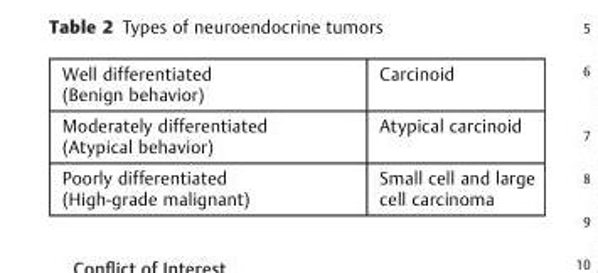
<table><tbody><tr><td>Well differentiated (Benign behavior)</td><td>Carcinoid</td></tr><tr><td>Moderately differentiated (Atypical behavior)</td><td>Atypical carcinoid</td></tr><tr><td>Poorly differentiated (High-grade malignant)</td><td>Small cell and large cell carcinoma</td></tr></tbody></table>